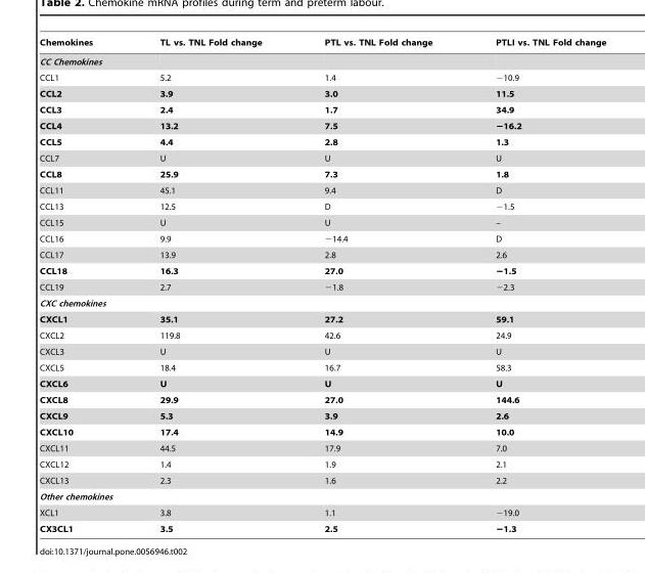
<table><thead><tr><td>Chemokines</td><td>TL vs. TNL Fold change</td><td>PTL vs. TNL Fold change</td><td>PTLI vs. TNL Fold change</td></tr></thead><tbody><tr><td colspan="4">CC Chemokines</td></tr><tr><td>CCL1</td><td>5.2</td><td>1.4</td><td>−10.9</td></tr><tr><td>CCL2</td><td>3.9</td><td>3.0</td><td>11.5</td></tr><tr><td>CCL3</td><td>2.4</td><td>1.7</td><td>34.9</td></tr><tr><td>CCL4</td><td>13.2</td><td>7.5</td><td>−16.2</td></tr><tr><td>CCL5</td><td>4.4</td><td>2.8</td><td>1.3</td></tr><tr><td>CCL7</td><td>U</td><td>U</td><td>U</td></tr><tr><td>CCL8</td><td>25.9</td><td>7.3</td><td>1.8</td></tr><tr><td>CCL11</td><td>45.1</td><td>9.4</td><td>D</td></tr><tr><td>CCL13</td><td>12.5</td><td>D</td><td>−1.5</td></tr><tr><td>CCL15</td><td>U</td><td>U</td><td>–</td></tr><tr><td>CCL16</td><td>9.9</td><td>−14.4</td><td>D</td></tr><tr><td>CCL17</td><td>13.9</td><td>2.8</td><td>2.6</td></tr><tr><td>CCL18</td><td>16.3</td><td>27.0</td><td>−1.5</td></tr><tr><td>CCL19</td><td>2.7</td><td>−1.8</td><td>−2.3</td></tr><tr><td colspan="4">CXC chemokines</td></tr><tr><td>CXCL1</td><td>35.1</td><td>27.2</td><td>59.1</td></tr><tr><td>CXCL2</td><td>119.8</td><td>42.6</td><td>24.9</td></tr><tr><td>CXCL3</td><td>U</td><td>U</td><td>U</td></tr><tr><td>CXCL5</td><td>18.4</td><td>16.7</td><td>58.3</td></tr><tr><td>CXCL6</td><td>U</td><td>U</td><td>U</td></tr><tr><td>CXCL8</td><td>29.9</td><td>27.0</td><td>144.6</td></tr><tr><td>CXCL9</td><td>5.3</td><td>3.9</td><td>2.6</td></tr><tr><td>CXCL10</td><td>17.4</td><td>14.9</td><td>10.0</td></tr><tr><td>CXCL11</td><td>44.5</td><td>17.9</td><td>7.0</td></tr><tr><td>CXCL12</td><td>1.4</td><td>1.9</td><td>2.1</td></tr><tr><td>CXCL13</td><td>2.3</td><td>1.6</td><td>2.2</td></tr><tr><td colspan="4">Other chemokines</td></tr><tr><td>XCL1</td><td>3.8</td><td>1.1</td><td>−19.0</td></tr><tr><td>CX3CL1</td><td>3.5</td><td>2.5</td><td>−1.3</td></tr></tbody></table>